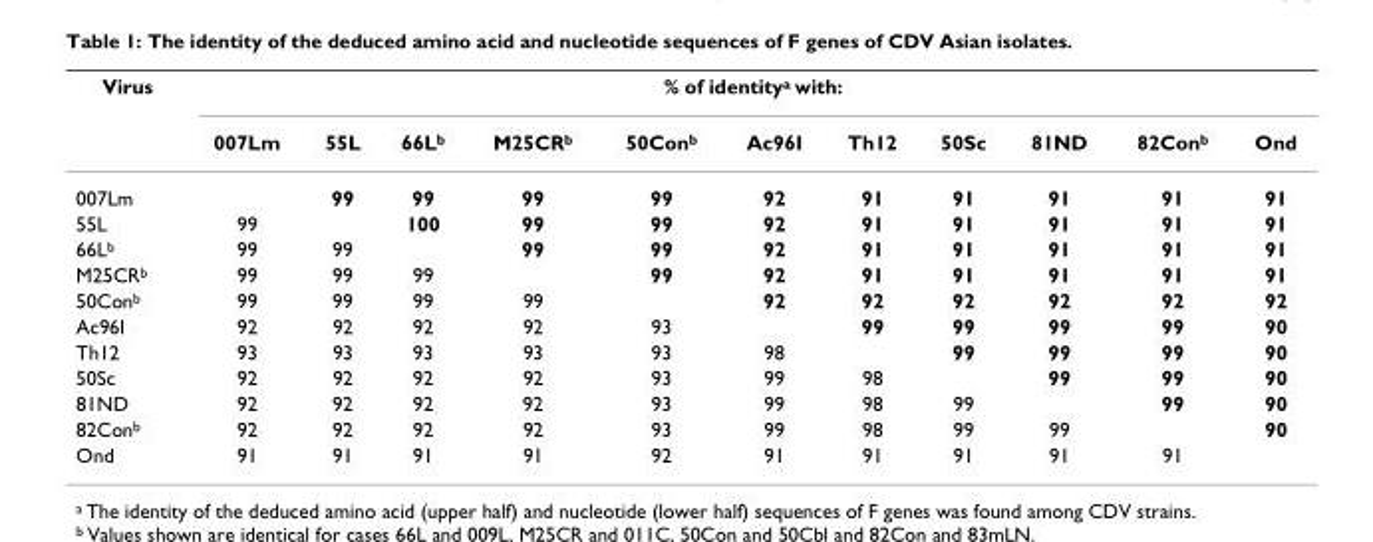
<table><tbody><tr><td rowspan="2">Virus</td><td colspan="11">% of identity<sup>a</sup> with:</td></tr><tr><td>007Lm</td><td>55L</td><td>66L<sup>b</sup></td><td>M25CR<sup>b</sup></td><td>50Con<sup>b</sup></td><td>Ac96I</td><td>Th12</td><td>50Sc</td><td>81ND</td><td>82Con<sup>b</sup></td><td>Ond</td></tr><tr><td>007Lm</td><td></td><td>99</td><td>99</td><td>99</td><td>99</td><td>92</td><td>91</td><td>91</td><td>91</td><td>91</td><td>91</td></tr><tr><td>55L</td><td>99</td><td></td><td>100</td><td>99</td><td>99</td><td>92</td><td>91</td><td>91</td><td>91</td><td>91</td><td>91</td></tr><tr><td>66L<sup>b</sup></td><td>99</td><td>99</td><td></td><td>99</td><td>99</td><td>92</td><td>91</td><td>91</td><td>91</td><td>91</td><td>91</td></tr><tr><td>M25CR<sup>b</sup></td><td>99</td><td>99</td><td>99</td><td></td><td>99</td><td>92</td><td>91</td><td>91</td><td>91</td><td>91</td><td>91</td></tr><tr><td>50Con<sup>b</sup></td><td>99</td><td>99</td><td>99</td><td>99</td><td></td><td>92</td><td>92</td><td>92</td><td>92</td><td>92</td><td>92</td></tr><tr><td>Ac96I</td><td>92</td><td>92</td><td>92</td><td>92</td><td>93</td><td></td><td>99</td><td>99</td><td>99</td><td>99</td><td>90</td></tr><tr><td>Th12</td><td>93</td><td>93</td><td>93</td><td>93</td><td>93</td><td>98</td><td></td><td>99</td><td>99</td><td>99</td><td>90</td></tr><tr><td>50Sc</td><td>92</td><td>92</td><td>92</td><td>92</td><td>93</td><td>99</td><td>98</td><td></td><td>99</td><td>99</td><td>90</td></tr><tr><td>81ND</td><td>92</td><td>92</td><td>92</td><td>92</td><td>93</td><td>99</td><td>98</td><td>99</td><td></td><td>99</td><td>90</td></tr><tr><td>82Con<sup>b</sup></td><td>92</td><td>92</td><td>92</td><td>92</td><td>93</td><td>99</td><td>98</td><td>99</td><td>99</td><td></td><td>90</td></tr><tr><td>Ond</td><td>91</td><td>91</td><td>91</td><td>91</td><td>92</td><td>91</td><td>91</td><td>91</td><td>91</td><td>91</td><td></td></tr></tbody></table>